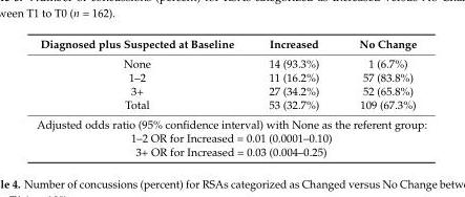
<table><thead><tr><td>Diagnosed plus Suspected at Baseline</td><td>Increased</td><td>No Change</td></tr></thead><tbody><tr><td>None</td><td>14 (93.3%)</td><td>1 (6.7%)</td></tr><tr><td>1–2</td><td>11 (16.2%)</td><td>57 (83.8%)</td></tr><tr><td>3+</td><td>27 (34.2%)</td><td>52 (65.8%)</td></tr><tr><td>Total</td><td>53 (32.7%)</td><td>109 (67.3%)</td></tr><tr><td colspan="3">Adjusted odds ratio (95% confidence interval) with None as the referent group: 1–2 OR for Increased = 0.01 (0.0001–0.10) 3+ OR for Increased = 0.03 (0.004–0.25)</td></tr></tbody></table>